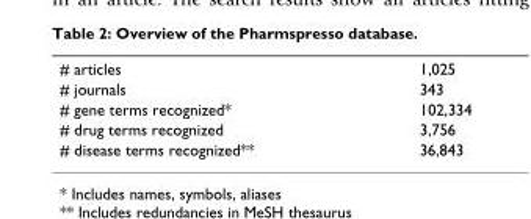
<table><tbody><tr><td># articles</td><td>1,025</td></tr><tr><td># journals</td><td>343</td></tr><tr><td># gene terms recognized*</td><td>102,334</td></tr><tr><td># drug terms recognized</td><td>3,756</td></tr><tr><td># disease terms recognized**</td><td>36,843</td></tr></tbody></table>